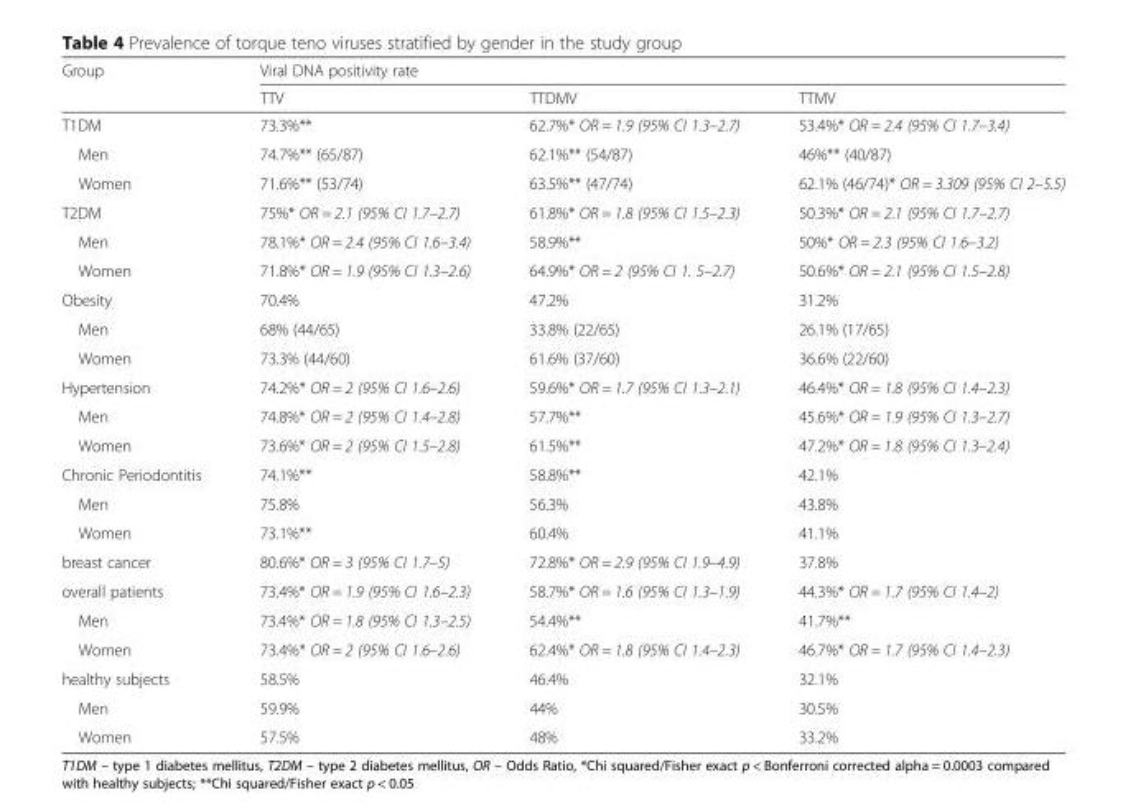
<table><thead><tr><td rowspan="2">Group</td><td colspan="3">Viral DNA positivity rate</td></tr><tr><td>TTV</td><td>TTDMV</td><td>TTMV</td></tr></thead><tbody><tr><td>T1DM</td><td>73.3%**</td><td>62.7%* OR = 1.9 (95% CI 1.3–2.7)</td><td>53.4%* OR = 2.4 (95% CI 1.7–3.4)</td></tr><tr><td>Men</td><td>74.7%** (65/87)</td><td>62.1%** (54/87)</td><td>46%** (40/87)</td></tr><tr><td>Women</td><td>71.6%** (53/74)</td><td>63.5%** (47/74)</td><td>62.1% (46/74)* OR = 3.309 (95% CI 2–5.5)</td></tr><tr><td>T2DM</td><td>75%* OR = 2.1 (95% CI 1.7–2.7)</td><td>61.8%* OR = 1.8 (95% CI 1.5–2.3)</td><td>50.3%* OR = 2.1 (95% CI 1.7–2.7)</td></tr><tr><td>Men</td><td>78.1%* OR = 2.4 (95% CI 1.6–3.4)</td><td>58.9%**</td><td>50%* OR = 2.3 (95% CI 1.6–3.2)</td></tr><tr><td>Women</td><td>71.8%* OR = 1.9 (95% CI 1.3–2.6)</td><td>64.9%* OR = 2 (95% CI 1. 5–2.7)</td><td>50.6%* OR = 2.1 (95% CI 1.5–2.8)</td></tr><tr><td>Obesity</td><td>70.4%</td><td>47.2%</td><td>31.2%</td></tr><tr><td>Men</td><td>68% (44/65)</td><td>33.8% (22/65)</td><td>26.1% (17/65)</td></tr><tr><td>Women</td><td>73.3% (44/60)</td><td>61.6% (37/60)</td><td>36.6% (22/60)</td></tr><tr><td>Hypertension</td><td>74.2%* OR = 2 (95% CI 1.6–2.6)</td><td>59.6%* OR = 1.7 (95% CI 1.3–2.1)</td><td>46.4%* OR = 1.8 (95% CI 1.4–2.3)</td></tr><tr><td>Men</td><td>74.8%* OR = 2 (95% CI 1.4–2.8)</td><td>57.7%**</td><td>45.6%* OR = 1.9 (95% CI 1.3–2.7)</td></tr><tr><td>Women</td><td>73.6%* OR = 2 (95% CI 1.5–2.8)</td><td>61.5%**</td><td>47.2%* OR = 1.8 (95% CI 1.3–2.4)</td></tr><tr><td>Chronic Periodontitis</td><td>74.1%**</td><td>58.8%**</td><td>42.1%</td></tr><tr><td>Men</td><td>75.8%</td><td>56.3%</td><td>43.8%</td></tr><tr><td>Women</td><td>73.1%**</td><td>60.4%</td><td>41.1%</td></tr><tr><td>breast cancer</td><td>80.6%* OR = 3 (95% CI 1.7–5)</td><td>72.8%* OR = 2.9 (95% CI 1.9–4.9)</td><td>37.8%</td></tr><tr><td>overall patients</td><td>73.4%* OR = 1.9 (95% CI 1.6–2.3)</td><td>58.7%* OR = 1.6 (95% CI 1.3–1.9)</td><td>44.3%* OR = 1.7 (95% CI 1.4–2)</td></tr><tr><td>Men</td><td>73.4%* OR = 1.8 (95% CI 1.3–2.5)</td><td>54.4%**</td><td>41.7%**</td></tr><tr><td>Women</td><td>73.4%* OR = 2 (95% CI 1.6–2.6)</td><td>62.4%* OR = 1.8 (95% CI 1.4–2.3)</td><td>46.7%* OR = 1.7 (95% CI 1.4–2.3)</td></tr><tr><td>healthy subjects</td><td>58.5%</td><td>46.4%</td><td>32.1%</td></tr><tr><td>Men</td><td>59.9%</td><td>44%</td><td>30.5%</td></tr><tr><td>Women</td><td>57.5%</td><td>48%</td><td>33.2%</td></tr></tbody></table>